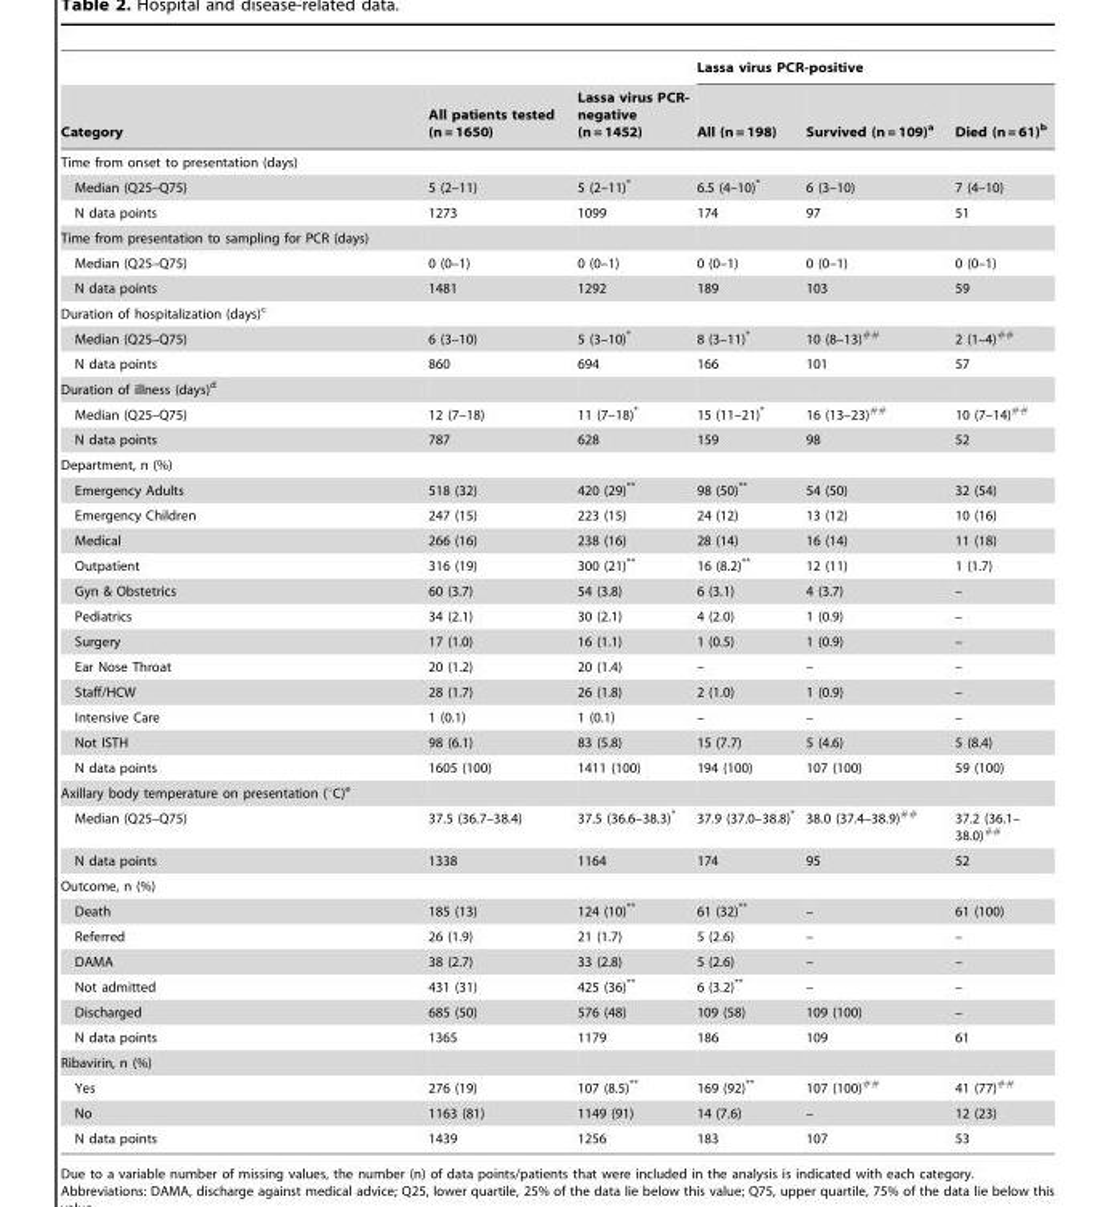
<table><thead><tr><td rowspan="2">Category</td><td rowspan="2">All patients tested (n = 1650)</td><td rowspan="2">Lassa virus PCR- negative (n = 1452)</td><td colspan="3">Lassa virus PCR-positive</td></tr><tr><td>All (n = 198)</td><td>Survived (n = 109)<sup>a</sup></td><td>Died (n = 61)<sup>b</sup></td></tr></thead><tbody><tr><td colspan="6">Time from onset to presentation (days)</td></tr><tr><td>Median (Q25–Q75)</td><td>5 (2–11)</td><td>5 (2–11)*</td><td>6.5 (4–10)*</td><td>6 (3–10)</td><td>7 (4–10)</td></tr><tr><td>N data points</td><td>1273</td><td>1099</td><td>174</td><td>97</td><td>51</td></tr><tr><td colspan="6">Time from presentation to sampling for PCR (days)</td></tr><tr><td>Median (Q25–Q75)</td><td>0 (0–1)</td><td>0 (0–1)</td><td>0 (0–1)</td><td>0 (0–1)</td><td>0 (0–1)</td></tr><tr><td>N data points</td><td>1481</td><td>1292</td><td>189</td><td>103</td><td>59</td></tr><tr><td colspan="6">Duration of hospitalization (days)<sup>c</sup></td></tr><tr><td>Median (Q25–Q75)</td><td>6 (3–10)</td><td>5 (3–10)*</td><td>8 (3–11)*</td><td>10 (8–13)##</td><td>2 (1–4)##</td></tr><tr><td>N data points</td><td>860</td><td>694</td><td>166</td><td>101</td><td>57</td></tr><tr><td colspan="6">Duration of illness (days)<sup>d</sup></td></tr><tr><td>Median (Q25–Q75)</td><td>12 (7–18)</td><td>11 (7–18)*</td><td>15 (11–21)*</td><td>16 (13–23)##</td><td>10 (7–14)##</td></tr><tr><td>N data points</td><td>787</td><td>628</td><td>159</td><td>98</td><td>52</td></tr><tr><td colspan="6">Department, n (%)</td></tr><tr><td>Emergency Adults</td><td>518 (32)</td><td>420 (29)**</td><td>98 (50)**</td><td>54 (50)</td><td>32 (54)</td></tr><tr><td>Emergency Children</td><td>247 (15)</td><td>223 (15)</td><td>24 (12)</td><td>13 (12)</td><td>10 (16)</td></tr><tr><td>Medical</td><td>266 (16)</td><td>238 (16)</td><td>28 (14)</td><td>16 (14)</td><td>11 (18)</td></tr><tr><td>Outpatient</td><td>316 (19)</td><td>300 (21)**</td><td>16 (8.2)**</td><td>12 (11)</td><td>1 (1.7)</td></tr><tr><td>Gyn &amp; Obstetrics</td><td>60 (3.7)</td><td>54 (3.8)</td><td>6 (3.1)</td><td>4 (3.7)</td><td>–</td></tr><tr><td>Pediatrics</td><td>34 (2.1)</td><td>30 (2.1)</td><td>4 (2.0)</td><td>1 (0.9)</td><td>–</td></tr><tr><td>Surgery</td><td>17 (1.0)</td><td>16 (1.1)</td><td>1 (0.5)</td><td>1 (0.9)</td><td>–</td></tr><tr><td>Ear Nose Throat</td><td>20 (1.2)</td><td>20 (1.4)</td><td>–</td><td>–</td><td>–</td></tr><tr><td>Staff/HCW</td><td>28 (1.7)</td><td>26 (1.8)</td><td>2 (1.0)</td><td>1 (0.9)</td><td>–</td></tr><tr><td>Intensive Care</td><td>1 (0.1)</td><td>1 (0.1)</td><td>–</td><td>–</td><td>–</td></tr><tr><td>Not ISTH</td><td>98 (6.1)</td><td>83 (5.8)</td><td>15 (7.7)</td><td>5 (4.6)</td><td>5 (8.4)</td></tr><tr><td>N data points</td><td>1605 (100)</td><td>1411 (100)</td><td>194 (100)</td><td>107 (100)</td><td>59 (100)</td></tr><tr><td colspan="6">Axillary body temperature on presentation (°C)<sup>e</sup></td></tr><tr><td>Median (Q25–Q75)</td><td>37.5 (36.7–38.4)</td><td>37.5 (36.6–38.3)*</td><td>37.9 (37.0–38.8)*</td><td>38.0 (37.4–38.9)##</td><td>37.2 (36.1– 38.0)##</td></tr><tr><td>N data points</td><td>1338</td><td>1164</td><td>174</td><td>95</td><td>52</td></tr><tr><td colspan="6">Outcome, n (%)</td></tr><tr><td>Death</td><td>185 (13)</td><td>124 (10)**</td><td>61 (32)**</td><td>–</td><td>61 (100)</td></tr><tr><td>Referred</td><td>26 (1.9)</td><td>21 (1.7)</td><td>5 (2.6)</td><td>–</td><td>–</td></tr><tr><td>DAMA</td><td>38 (2.7)</td><td>33 (2.8)</td><td>5 (2.6)</td><td>–</td><td>–</td></tr><tr><td>Not admitted</td><td>431 (31)</td><td>425 (36)**</td><td>6 (3.2)**</td><td>–</td><td>–</td></tr><tr><td>Discharged</td><td>685 (50)</td><td>576 (48)</td><td>109 (58)</td><td>109 (100)</td><td>–</td></tr><tr><td>N data points</td><td>1365</td><td>1179</td><td>186</td><td>109</td><td>61</td></tr><tr><td colspan="6">Ribavirin, n (%)</td></tr><tr><td>Yes</td><td>276 (19)</td><td>107 (8.5)**</td><td>169 (92)**</td><td>107 (100)##</td><td>41 (77)##</td></tr><tr><td>No</td><td>1163 (81)</td><td>1149 (91)</td><td>14 (7.6)</td><td>–</td><td>12 (23)</td></tr><tr><td>N data points</td><td>1439</td><td>1256</td><td>183</td><td>107</td><td>53</td></tr></tbody></table>